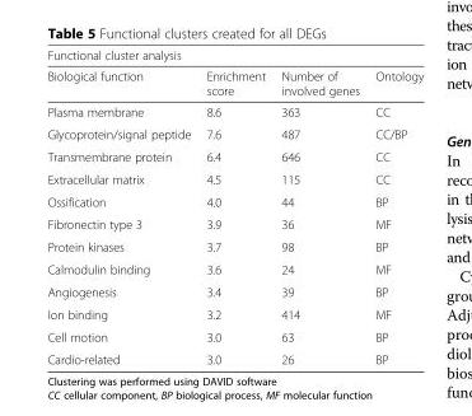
<table><thead><tr><td colspan="4">Functional cluster analysis</td></tr><tr><td>Biological function</td><td>Enrichment score</td><td>Number of involved genes</td><td>Ontology</td></tr></thead><tbody><tr><td>Plasma membrane</td><td>8.6</td><td>363</td><td>CC</td></tr><tr><td>Glycoprotein/signal peptide</td><td>7.6</td><td>487</td><td>CC/BP</td></tr><tr><td>Transmembrane protein</td><td>6.4</td><td>646</td><td>CC</td></tr><tr><td>Extracellular matrix</td><td>4.5</td><td>115</td><td>CC</td></tr><tr><td>Ossification</td><td>4.0</td><td>44</td><td>BP</td></tr><tr><td>Fibronectin type 3</td><td>3.9</td><td>36</td><td>MF</td></tr><tr><td>Protein kinases</td><td>3.7</td><td>98</td><td>BP</td></tr><tr><td>Calmodulin binding</td><td>3.6</td><td>24</td><td>MF</td></tr><tr><td>Angiogenesis</td><td>3.4</td><td>39</td><td>BP</td></tr><tr><td>Ion binding</td><td>3.2</td><td>414</td><td>MF</td></tr><tr><td>Cell motion</td><td>3.0</td><td>63</td><td>BP</td></tr><tr><td>Cardio-related</td><td>3.0</td><td>26</td><td>BP</td></tr></tbody></table>